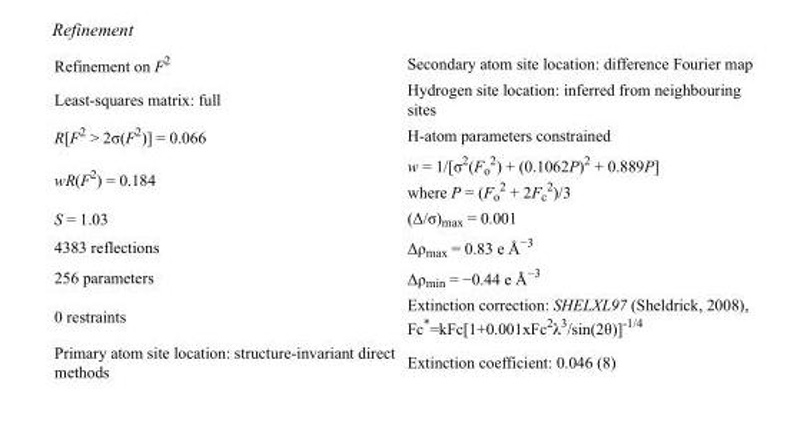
<table><tbody><tr><td>Refinement on F<sup>2</sup></td><td>Secondary atom site location: difference Fourier map</td></tr><tr><td>Least-squares matrix: full</td><td>Hydrogen site location: inferred from neighbouring sites</td></tr><tr><td>R[F<sup>2</sup> &gt; 2σ(F<sup>2</sup>)] = 0.066</td><td>H-atom parameters constrained</td></tr><tr><td>wR(F<sup>2</sup>) = 0.184</td><td>w = 1/[σ<sup>2</sup>(F<sub>o</sub> <sup>2</sup>) + (0.1062P)<sup>2</sup> + 0.889P] where P = (F<sub>o</sub> <sup>2</sup> + 2F<sub>c</sub> <sup>2</sup>)/3</td></tr><tr><td>S = 1.03</td><td>(Δ/σ)<sub>max</sub> = 0.001</td></tr><tr><td>4383 reflections</td><td>Δρ<sub>max</sub> = 0.83 e Å<sup>−3</sup></td></tr><tr><td>256 parameters</td><td>Δρ<sub>min</sub> = −0.44 e Å<sup>−3</sup></td></tr><tr><td>0 restraints</td><td>Extinction correction: SHELXL97 (Sheldrick, 2008), Fc*=kFc[1+0.001xFc<sup>2</sup>λ<sup>3</sup>/sin(2θ)]<sup>-1/4</sup></td></tr><tr><td>Primary atom site location: structure-invariant direct methods</td><td>Extinction coefficient: 0.046 (8)</td></tr></tbody></table>